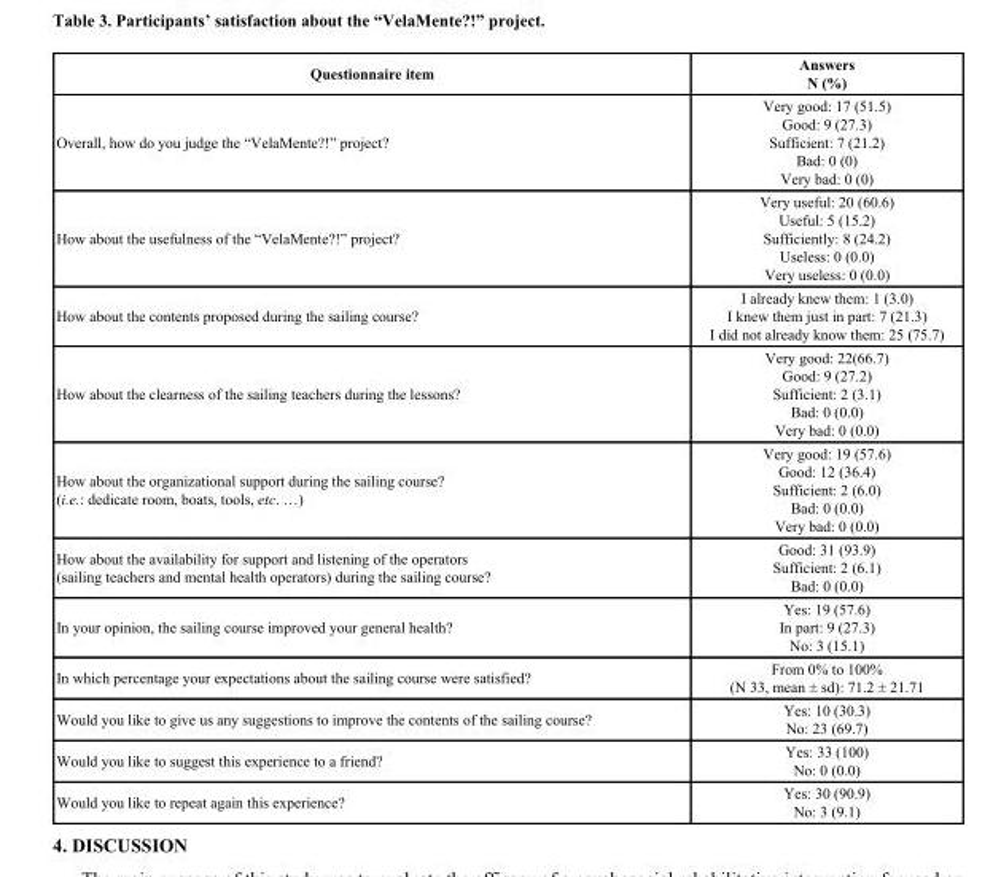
<table><thead><tr><td>Questionnaire item</td><td>Answers N (%)</td></tr></thead><tbody><tr><td>Overall, how do you judge the “VelaMente?!” project?</td><td>Very good: 17 (51.5) Good: 9 (27.3) Sufficient: 7 (21.2) Bad: 0 (0) Very bad: 0 (0)</td></tr><tr><td>How about the usefulness of the “VelaMente?!” project?</td><td>Very useful: 20 (60.6) Useful: 5 (15.2) Sufficiently: 8 (24.2) Useless: 0 (0.0) Very useless: 0 (0.0)</td></tr><tr><td>How about the contents proposed during the sailing course?</td><td>I already knew them: 1 (3.0) I knew them just in part: 7 (21.3) I did not already know them: 25 (75.7)</td></tr><tr><td>How about the clearness of the sailing teachers during the lessons?</td><td>Very good: 22(66.7) Good: 9 (27.2) Sufficient: 2 (3.1) Bad: 0 (0.0) Very bad: 0 (0.0)</td></tr><tr><td>How about the organizational support during the sailing course? (i.e.: dedicate room, boats, tools, etc. …)</td><td>Very good: 19 (57.6) Good: 12 (36.4) Sufficient: 2 (6.0) Bad: 0 (0.0) Very bad: 0 (0.0)</td></tr><tr><td>How about the availability for support and listening of the operators (sailing teachers and mental health operators) during the sailing course?</td><td>Good: 31 (93.9) Sufficient: 2 (6.1) Bad: 0 (0.0)</td></tr><tr><td>In your opinion, the sailing course improved your general health?</td><td>Yes: 19 (57.6) In part: 9 (27.3) No: 3 (15.1)</td></tr><tr><td>In which percentage your expectations about the sailing course were satisfied?</td><td>From 0% to 100% (N 33, mean ± sd): 71.2 ± 21.71</td></tr><tr><td>Would you like to give us any suggestions to improve the contents of the sailing course?</td><td>Yes: 10 (30.3) No: 23 (69.7)</td></tr><tr><td>Would you like to suggest this experience to a friend?</td><td>Yes: 33 (100) No: 0 (0.0)</td></tr><tr><td>Would you like to repeat again this experience?</td><td>Yes: 30 (90.9) No: 3 (9.1)</td></tr></tbody></table>